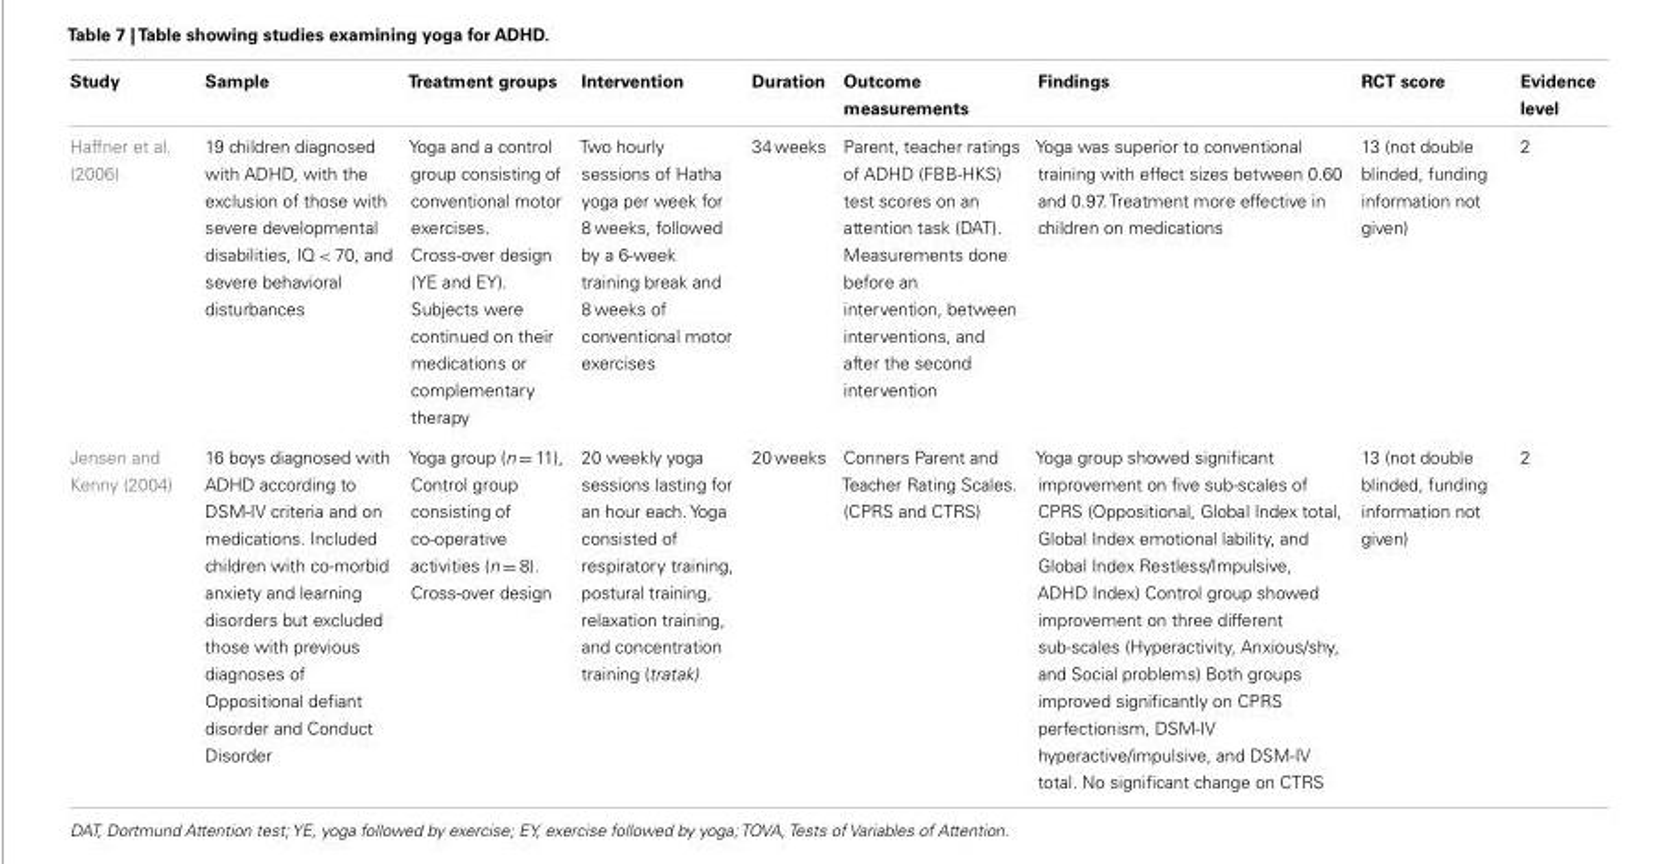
<table><thead><tr><td>Study</td><td>Sample</td><td>Treatment groups</td><td>Intervention</td><td>Duration</td><td>Outcome measurements</td><td>Findings</td><td>RCT score</td><td>Evidence level</td></tr></thead><tbody><tr><td>Haffner et al. (2006)</td><td>19 children diagnosed with ADHD, with the exclusion of those with severe developmental disabilities, IQ &lt; 70, and severe behavioral disturbances</td><td>Yoga and a control group consisting of conventional motor exercises. Cross-over design (YE and EY). Subjects were continued on their medications or complementary therapy</td><td>Two hourly sessions of Hatha yoga per week for 8 weeks, followed by a 6-week training break and 8 weeks of conventional motor exercises</td><td>34 weeks</td><td>Parent, teacher ratings of ADHD (FBB-HKS) test scores on an attention task (DAT). Measurements done before an intervention, between interventions, and after the second intervention</td><td>Yoga was superior to conventional training with effect sizes between 0.60 and 0.97. Treatment more effective in children on medications</td><td>13 (not double blinded, funding information not given)</td><td>2</td></tr><tr><td>Jensen and Kenny (2004)</td><td>16 boys diagnosed with ADHD according to DSM-IV criteria and on medications. Included children with co-morbid anxiety and learning disorders but excluded those with previous diagnoses of Oppositional defiant disorder and Conduct Disorder</td><td>Yoga group (n = 11), Control group consisting of co-operative activities (n = 8). Cross-over design</td><td>20 weekly yoga sessions lasting for an hour each. Yoga consisted of respiratory training, postural training, relaxation training, and concentration training (tratak)</td><td>20 weeks</td><td>Conners Parent and Teacher Rating Scales. (CPRS and CTRS)</td><td>Yoga group showed significant improvement on five sub-scales of CPRS (Oppositional, Global Index total, Global Index emotional lability, and Global Index Restless/Impulsive, ADHD Index) Control group showed improvement on three different sub-scales (Hyperactivity, Anxious/shy, and Social problems) Both groups improved significantly on CPRS perfectionism, DSM-IV hyperactive/impulsive, and DSM-IV total. No significant change on CTRS</td><td>13 (not double blinded, funding information not given)</td><td>2</td></tr></tbody></table>